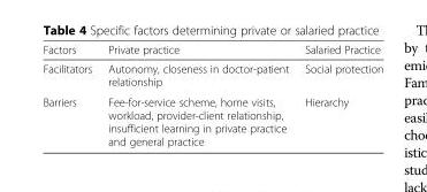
<table><thead><tr><td>Factors</td><td>Private practice</td><td>Salaried Practice</td></tr></thead><tbody><tr><td>Facilitators</td><td>Autonomy, closeness in doctor-patient relationship</td><td>Social protection</td></tr><tr><td>Barriers</td><td>Fee-for-service scheme, home visits, workload, provider-client relationship, insufficient learning in private practice and general practice</td><td>Hierarchy</td></tr></tbody></table>